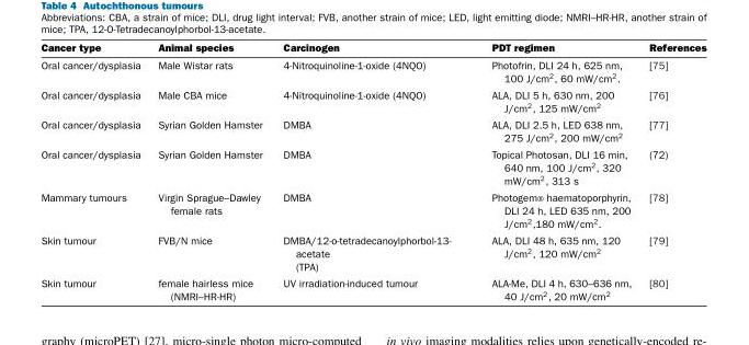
<table><thead><tr><td>Cancer type</td><td>Animal species</td><td>Carcinogen</td><td>PDT regimen</td><td>References</td></tr></thead><tbody><tr><td>Oral cancer/dysplasia</td><td>Male Wistar rats</td><td>4-Nitroquinoline-1-oxide (4NQO)</td><td>Photofrin, DLI 24 h, 625 nm, 100 J/cm2, 60 mW/cm2.</td><td>[75]</td></tr><tr><td>Oral cancer/dysplasia</td><td>Male CBA mice</td><td>4-Nitroquinoline-1-oxide (4NQO)</td><td>ALA, DLI 5 h, 630 nm, 200 J/cm2, 125 mW/cm2</td><td>[76]</td></tr><tr><td>Oral cancer/dysplasia</td><td>Syrian Golden Hamster</td><td>DMBA</td><td>ALA, DLI 2.5 h, LED 638 nm, 275 J/cm2, 200 mW/cm2</td><td>[77]</td></tr><tr><td>Oral cancer/dysplasia</td><td>Syrian Golden Hamster</td><td>DMBA</td><td>Topical Photosan, DLI 16 min, 640 nm, 100 J/cm2, 320 mW/cm2, 313 s</td><td>(72)</td></tr><tr><td>Mammary tumours</td><td>Virgin Sprague–Dawley female rats</td><td>DMBA</td><td>Photogem® haematoporphyrin, DLI 24 h, LED 635 nm, 200 J/cm2,180 mW/cm2.</td><td>[78]</td></tr><tr><td>Skin tumour</td><td>FVB/N mice</td><td>DMBA/12-o-tetradecanoylphorbol-13- acetate (TPA)</td><td>ALA, DLI 48 h, 635 nm, 120 J/cm2, 120 mW/cm2</td><td>[79]</td></tr><tr><td>Skin tumour</td><td>female hairless mice (NMRI–HR-HR)</td><td>UV irradiation-induced tumour</td><td>ALA-Me, DLI 4 h, 630–636 nm, 40 J/cm2, 20 mW/cm2</td><td>[80]</td></tr></tbody></table>